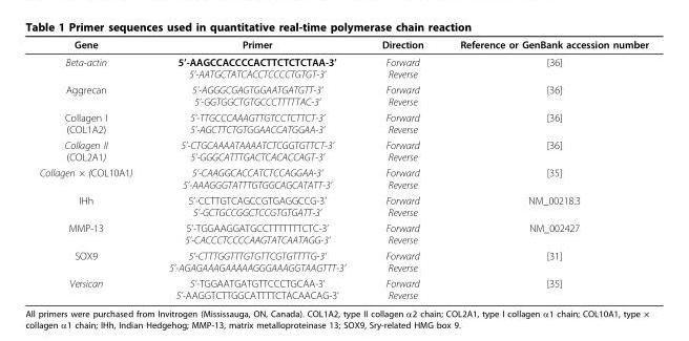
<table><thead><tr><td>Gene</td><td>Primer</td><td>Direction</td><td>Reference or GenBank accession number</td></tr></thead><tbody><tr><td>Beta-actin</td><td>5’-AAGCCACCCCACTTCTCTCTAA-3’ 5’-AATGCTATCACCTCCCCTGTGT-3’</td><td>Forward Reverse</td><td>[36]</td></tr><tr><td>Aggrecan</td><td>5’-AGGGCGAGTGGAATGATGTT-3’ 5’-GGTGGCTGTGCCCTTTTTAC-3’</td><td>Forward Reverse</td><td>[36]</td></tr><tr><td>Collagen I (COL1A2)</td><td>5’-TTGCCCAAAGTTGTCCTCTTCT-3’ 5’-AGCTTCTGTGGAACCATGGAA-3’</td><td>Forward Reverse</td><td>[36]</td></tr><tr><td>Collagen II (COL2A1)</td><td>5’-CTGCAAAATAAAATCTCGGTGTTCT-3’ 5’-GGGCATTTGACTCACACCAGT-3’</td><td>Forward Reverse</td><td>[36]</td></tr><tr><td>Collagen × (COL10A1)</td><td>5’-CAAGGCACCATCTCCAGGAA-3’ 5’-AAAGGGTATTTGTGGCAGCATATT-3’</td><td>Forward Reverse</td><td>[35]</td></tr><tr><td>IHh</td><td>5’-CCTTGTCAGCCGTGAGGCCG-3’ 5’-GCTGCCGGCTCCGTGTGATT-3’</td><td>Forward Reverse</td><td>NM_00218.3</td></tr><tr><td>MMP-13</td><td>5’-TGGAAGGATGCCTTTTTTTCTC-3’ 5’-CACCCTCCCCAAGTATCAATAGG-3’</td><td>Forward Reverse</td><td>NM_002427</td></tr><tr><td>SOX9</td><td>5’-CTTTGGTTTGTGTTCGTGTTTTG-3’ 5’-AGAGAAAGAAAAAGGGAAAGGTAAGTTT-3’</td><td>Forward Reverse</td><td>[31]</td></tr><tr><td>Versican</td><td>5’-TGGAATGATGTTCCCTGCAA-3’ 5’-AAGGTCTTGGCATTTTCTACAACAG-3’</td><td>Forward Reverse</td><td>[35]</td></tr></tbody></table>